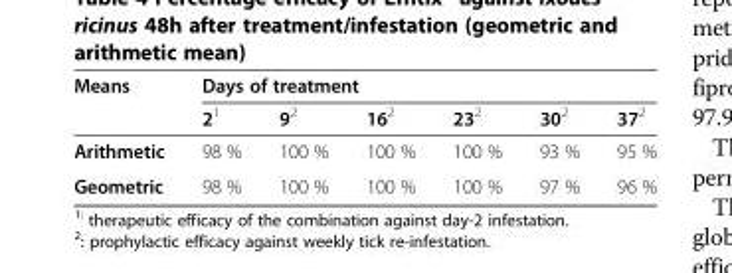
<table><thead><tr><td rowspan="2">Means</td><td colspan="6">Days of treatment</td></tr><tr><td>2<sup>1</sup></td><td>9<sup>2</sup></td><td>16<sup>2</sup></td><td>23<sup>2</sup></td><td>30<sup>2</sup></td><td>37<sup>2</sup></td></tr></thead><tbody><tr><td>Arithmetic</td><td>98 %</td><td>100 %</td><td>100 %</td><td>100 %</td><td>93 %</td><td>95 %</td></tr><tr><td>Geometric</td><td>98 %</td><td>100 %</td><td>100 %</td><td>100 %</td><td>97 %</td><td>96 %</td></tr></tbody></table>